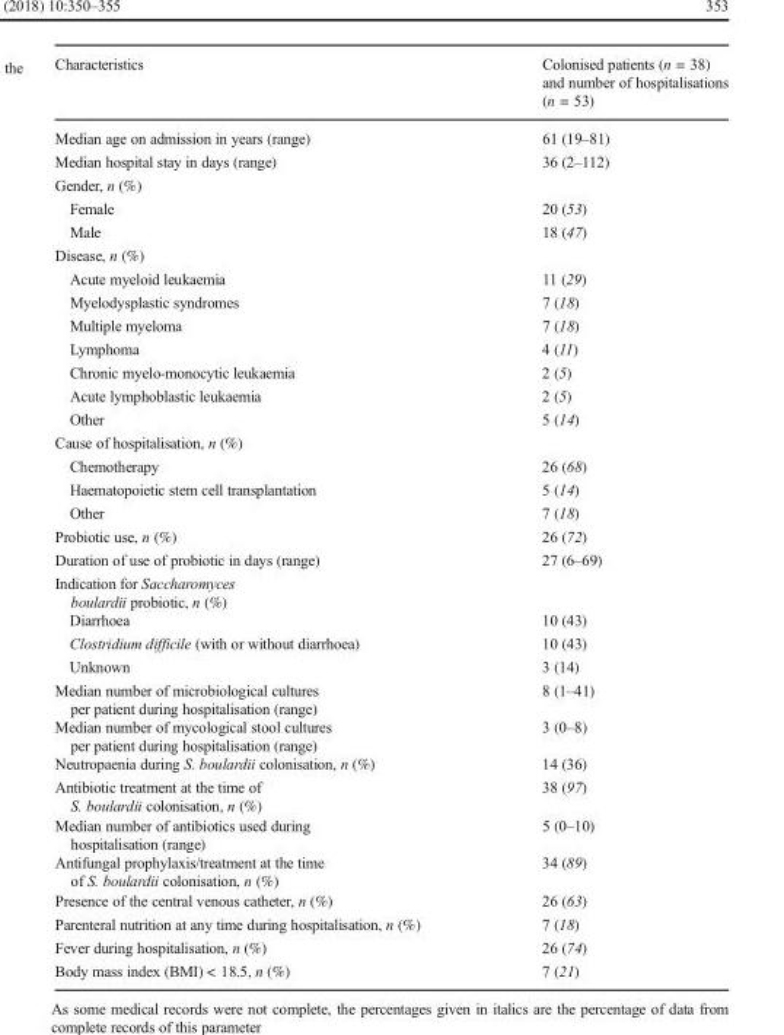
<table><thead><tr><td>Characteristics</td><td>Colonised patients (n = 38) and number of hospitalisations (n = 53)</td></tr></thead><tbody><tr><td>Median age on admission in years (range)</td><td>61 (19–81)</td></tr><tr><td>Median hospital stay in days (range)</td><td>36 (2–112)</td></tr><tr><td colspan="2">Gender, n (%)</td></tr><tr><td>Female</td><td>20 (53)</td></tr><tr><td>Male</td><td>18 (47)</td></tr><tr><td colspan="2">Disease, n (%)</td></tr><tr><td>Acute myeloid leukaemia</td><td>11 (29)</td></tr><tr><td>Myelodysplastic syndromes</td><td>7 (18)</td></tr><tr><td>Multiple myeloma</td><td>7 (18)</td></tr><tr><td>Lymphoma</td><td>4 (11)</td></tr><tr><td>Chronic myelo-monocytic leukaemia</td><td>2 (5)</td></tr><tr><td>Acute lymphoblastic leukaemia</td><td>2 (5)</td></tr><tr><td>Other</td><td>5 (14)</td></tr><tr><td colspan="2">Cause of hospitalisation, n (%)</td></tr><tr><td>Chemotherapy</td><td>26 (68)</td></tr><tr><td>Haematopoietic stem cell transplantation</td><td>5 (14)</td></tr><tr><td>Other</td><td>7 (18)</td></tr><tr><td>Probiotic use, n (%)</td><td>26 (72)</td></tr><tr><td>Duration of use of probiotic in days (range)</td><td>27 (6–69)</td></tr><tr><td colspan="2">Indication for Saccharomyces boulardii probiotic, n (%)</td></tr><tr><td>Diarrhoea</td><td>10 (43)</td></tr><tr><td>Clostridium difficile (with or without diarrhoea)</td><td>10 (43)</td></tr><tr><td>Unknown</td><td>3 (14)</td></tr><tr><td>Median number of microbiological cultures per patient during hospitalisation (range)</td><td>8 (1–41)</td></tr><tr><td>Median number of mycological stool cultures per patient during hospitalisation (range)</td><td>3 (0–8)</td></tr><tr><td>Neutropaenia during S. boulardii colonisation, n (%)</td><td>14 (36)</td></tr><tr><td>Antibiotic treatment at the time of S. boulardii colonisation, n (%)</td><td>38 (97)</td></tr><tr><td>Median number of antibiotics used during hospitalisation (range)</td><td>5 (0–10)</td></tr><tr><td>Antifungal prophylaxis/treatment at the time of S. boulardii colonisation, n (%)</td><td>34 (89)</td></tr><tr><td>Presence of the central venous catheter, n (%)</td><td>26 (63)</td></tr><tr><td>Parenteral nutrition at any time during hospitalisation, n (%)</td><td>7 (18)</td></tr><tr><td>Fever during hospitalisation, n (%)</td><td>26 (74)</td></tr><tr><td>Body mass index (BMI) &lt; 18.5, n (%)</td><td>7 (21)</td></tr></tbody></table>